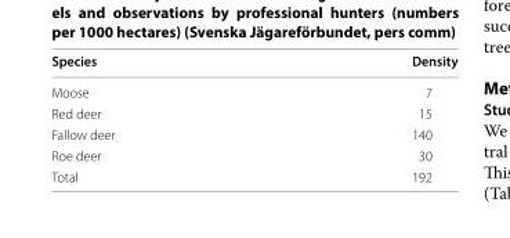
<table><thead><tr><td>Species</td><td>Density</td></tr></thead><tbody><tr><td>Moose</td><td>7</td></tr><tr><td>Red deer</td><td>15</td></tr><tr><td>Fallow deer</td><td>140</td></tr><tr><td>Roe deer</td><td>30</td></tr><tr><td>Total</td><td>192</td></tr></tbody></table>